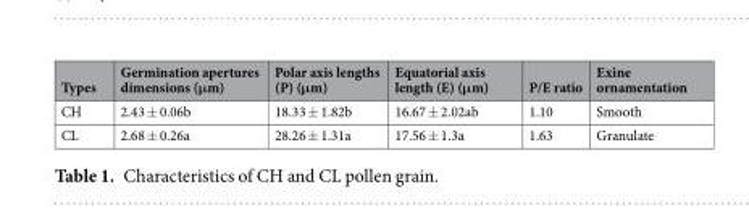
<table><thead><tr><td>Types</td><td>Germination apertures dimensions (μm)</td><td>Polar axis lengths (P) (μm)</td><td>Equatorial axis length (E) (μm)</td><td>P/E ratio</td><td>Exine ornamentation</td></tr></thead><tbody><tr><td>CH</td><td>2.43 ± 0.06b</td><td>18.33 ± 1.82b</td><td>16.67 ± 2.02ab</td><td>1.10</td><td>Smooth</td></tr><tr><td>CL</td><td>2.68 ± 0.26a</td><td>28.26 ± 1.31a</td><td>17.56 ± 1.3a</td><td>1.63</td><td>Granulate</td></tr></tbody></table>